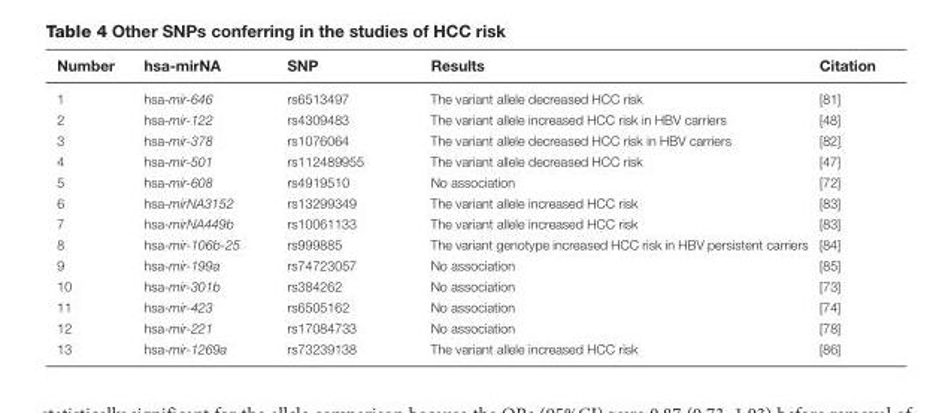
<table><thead><tr><td>Number</td><td>hsa-mirNA</td><td>SNP</td><td>Results</td><td>Citation</td></tr></thead><tbody><tr><td>1</td><td>hsa-mir-646</td><td>rs6513497</td><td>The variant allele decreased HCC risk</td><td>[81]</td></tr><tr><td>2</td><td>hsa-mir-122</td><td>rs4309483</td><td>The variant allele increased HCC risk in HBV carriers</td><td>[48]</td></tr><tr><td>3</td><td>hsa-mir-378</td><td>rs1076064</td><td>The variant allele decreased HCC risk in HBV carriers</td><td>[82]</td></tr><tr><td>4</td><td>hsa-mir-501</td><td>rs112489955</td><td>The variant allele decreased HCC risk</td><td>[47]</td></tr><tr><td>5</td><td>hsa-mir-608</td><td>rs4919510</td><td>No association</td><td>[72]</td></tr><tr><td>6</td><td>hsa-mirNA3152</td><td>rs13299349</td><td>The variant allele increased HCC risk</td><td>[83]</td></tr><tr><td>7</td><td>hsa-mirNA449b</td><td>rs10061133</td><td>The variant allele increased HCC risk</td><td>[83]</td></tr><tr><td>8</td><td>hsa-mir-106b-25</td><td>rs999885</td><td>The variant genotype increased HCC risk in HBV persistent carriers</td><td>[84]</td></tr><tr><td>9</td><td>hsa-mir-199a</td><td>rs74723057</td><td>No association</td><td>[85]</td></tr><tr><td>10</td><td>hsa-mir-301b</td><td>rs384262</td><td>No association</td><td>[73]</td></tr><tr><td>11</td><td>hsa-mir-423</td><td>rs6505162</td><td>No association</td><td>[74]</td></tr><tr><td>12</td><td>hsa-mir-221</td><td>rs17084733</td><td>No association</td><td>[78]</td></tr><tr><td>13</td><td>hsa-mir-1269a</td><td>rs73239138</td><td>The variant allele increased HCC risk</td><td>[86]</td></tr></tbody></table>